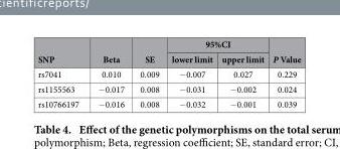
<table><thead><tr><td rowspan="2">SNP</td><td rowspan="2">Beta</td><td rowspan="2">SE</td><td colspan="2">95%CI</td><td rowspan="2">P Value</td></tr><tr><td>lower limit</td><td>upper limit</td></tr></thead><tbody><tr><td>rs7041</td><td>0.010</td><td>0.009</td><td>− 0.007</td><td>0.027</td><td>0.229</td></tr><tr><td>rs1155563</td><td>− 0.017</td><td>0.008</td><td>− 0.031</td><td>− 0.002</td><td>0.024</td></tr><tr><td>rs10766197</td><td>− 0.016</td><td>0.008</td><td>− 0.032</td><td>− 0.001</td><td>0.039</td></tr></tbody></table>